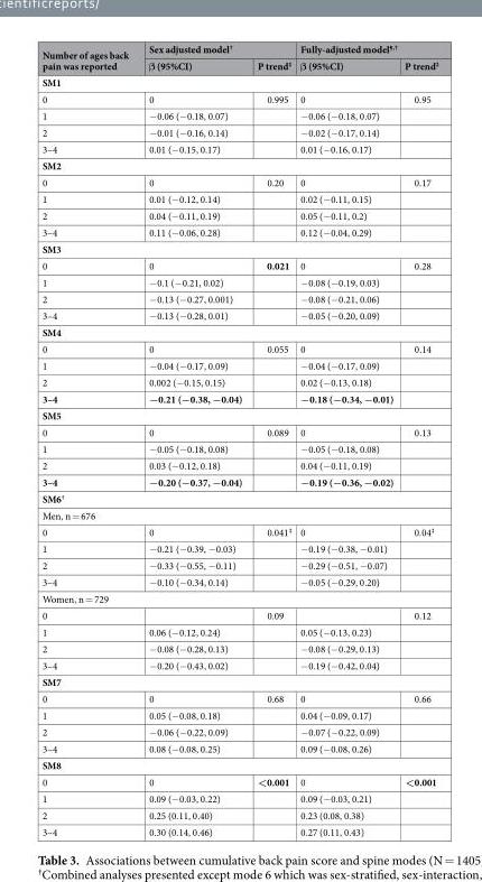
<table><thead><tr><td rowspan="2">Number of ages back pain was reported</td><td colspan="2">Sex adjusted model<sup>†</sup></td><td colspan="2">Fully-adjusted model<sup>¶,†</sup></td></tr><tr><td>β (95%CI)</td><td>P trend<sup>‡</sup></td><td>β (95%CI)</td><td>P trend<sup>‡</sup></td></tr></thead><tbody><tr><td colspan="5">SM1</td></tr><tr><td>0</td><td>0</td><td>0.995</td><td>0</td><td>0.95</td></tr><tr><td>1</td><td>−0.06 (−0.18, 0.07)</td><td></td><td>−0.06 (−0.18, 0.07)</td><td></td></tr><tr><td>2</td><td>−0.01 (−0.16, 0.14)</td><td></td><td>−0.02 (−0.17, 0.14)</td><td></td></tr><tr><td>3–4</td><td>0.01 (−0.15, 0.17)</td><td></td><td>0.01 (−0.16, 0.17)</td><td></td></tr><tr><td colspan="5">SM2</td></tr><tr><td>0</td><td>0</td><td>0.20</td><td>0</td><td>0.17</td></tr><tr><td>1</td><td>0.01 (−0.12, 0.14)</td><td></td><td>0.02 (−0.11, 0.15)</td><td></td></tr><tr><td>2</td><td>0.04 (−0.11, 0.19)</td><td></td><td>0.05 (−0.11, 0.2)</td><td></td></tr><tr><td>3–4</td><td>0.11 (−0.06, 0.28)</td><td></td><td>0.12 (−0.04, 0.29)</td><td></td></tr><tr><td colspan="5">SM3</td></tr><tr><td>0</td><td>0</td><td>0.021</td><td>0</td><td>0.28</td></tr><tr><td>1</td><td>−0.1 (−0.21, 0.02)</td><td></td><td>−0.08 (−0.19, 0.03)</td><td></td></tr><tr><td>2</td><td>−0.13 (−0.27, 0.001)</td><td></td><td>−0.08 (−0.21, 0.06)</td><td></td></tr><tr><td>3–4</td><td>−0.13 (−0.28, 0.01)</td><td></td><td>−0.05 (−0.20, 0.09)</td><td></td></tr><tr><td colspan="5">SM4</td></tr><tr><td>0</td><td>0</td><td>0.055</td><td>0</td><td>0.14</td></tr><tr><td>1</td><td>−0.04 (−0.17, 0.09)</td><td></td><td>−0.04 (−0.17, 0.09)</td><td></td></tr><tr><td>2</td><td>0.002 (−0.15, 0.15)</td><td></td><td>0.02 (−0.13, 0.18)</td><td></td></tr><tr><td>3–4</td><td>−0.21 (−0.38, −0.04)</td><td></td><td>−0.18 (−0.34, −0.01)</td><td></td></tr><tr><td colspan="5">SM5</td></tr><tr><td>0</td><td>0</td><td>0.089</td><td>0</td><td>0.13</td></tr><tr><td>1</td><td>−0.05 (−0.18, 0.08)</td><td></td><td>−0.05 (−0.18, 0.08)</td><td></td></tr><tr><td>2</td><td>0.03 (−0.12, 0.18)</td><td></td><td>0.04 (−0.11, 0.19)</td><td></td></tr><tr><td>3–4</td><td>−0.20 (−0.37, −0.04)</td><td></td><td>−0.19 (−0.36, −0.02)</td><td></td></tr><tr><td colspan="5">SM6<sup>†</sup></td></tr><tr><td colspan="5">Men, n = 676</td></tr><tr><td>0</td><td>0</td><td>0.041<sup>‡</sup></td><td>0</td><td>0.04<sup>‡</sup></td></tr><tr><td>1</td><td>−0.21 (−0.39, −0.03)</td><td></td><td>−0.19 (−0.38, −0.01)</td><td></td></tr><tr><td>2</td><td>−0.33 (−0.55, −0.11)</td><td></td><td>−0.29 (−0.51, −0.07)</td><td></td></tr><tr><td>3–4</td><td>−0.10 (−0.34, 0.14)</td><td></td><td>−0.05 (−0.29, 0.20)</td><td></td></tr><tr><td colspan="5">Women, n = 729</td></tr><tr><td>0</td><td></td><td>0.09</td><td></td><td>0.12</td></tr><tr><td>1</td><td>0.06 (−0.12, 0.24)</td><td></td><td>0.05 (−0.13, 0.23)</td><td></td></tr><tr><td>2</td><td>−0.08 (−0.28, 0.13)</td><td></td><td>−0.08 (−0.29, 0.13)</td><td></td></tr><tr><td>3–4</td><td>−0.20 (−0.43, 0.02)</td><td></td><td>−0.19 (−0.42, 0.04)</td><td></td></tr><tr><td colspan="5">SM7</td></tr><tr><td>0</td><td>0</td><td>0.68</td><td>0</td><td>0.66</td></tr><tr><td>1</td><td>0.05 (−0.08, 0.18)</td><td></td><td>0.04 (−0.09, 0.17)</td><td></td></tr><tr><td>2</td><td>−0.06 (−0.22, 0.09)</td><td></td><td>−0.07 (−0.22, 0.09)</td><td></td></tr><tr><td>3–4</td><td>0.08 (−0.08, 0.25)</td><td></td><td>0.09 (−0.08, 0.26)</td><td></td></tr><tr><td colspan="5">SM8</td></tr><tr><td>0</td><td>0</td><td>&lt;0.001</td><td>0</td><td>&lt;0.001</td></tr><tr><td>1</td><td>0.09 (−0.03, 0.22)</td><td></td><td>0.09 (−0.03, 0.21)</td><td></td></tr><tr><td>2</td><td>0.25 (0.11, 0.40)</td><td></td><td>0.23 (0.08, 0.38)</td><td></td></tr><tr><td>3–4</td><td>0.30 (0.14, 0.46)</td><td></td><td>0.27 (0.11, 0.43)</td><td></td></tr></tbody></table>